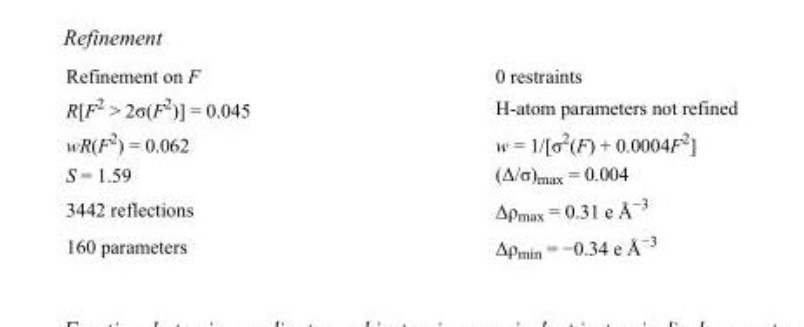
<table><tbody><tr><td>Refinement on F</td><td>0 restraints</td></tr><tr><td>R[F<sup>2</sup> &gt; 2σ(F<sup>2</sup>)] = 0.045</td><td>H-atom parameters not refined</td></tr><tr><td>wR(F<sup>2</sup>) = 0.062</td><td>w = 1/[σ<sup>2</sup>(F) + 0.0004F<sup>2</sup>]</td></tr><tr><td>S = 1.59</td><td>(Δ/σ)<sub>max</sub> = 0.004</td></tr><tr><td>3442 reflections</td><td>Δρ<sub>max</sub> = 0.31 e Å<sup>−3</sup></td></tr><tr><td>160 parameters</td><td>Δρ<sub>min</sub> = −0.34 e Å<sup>−3</sup></td></tr></tbody></table>